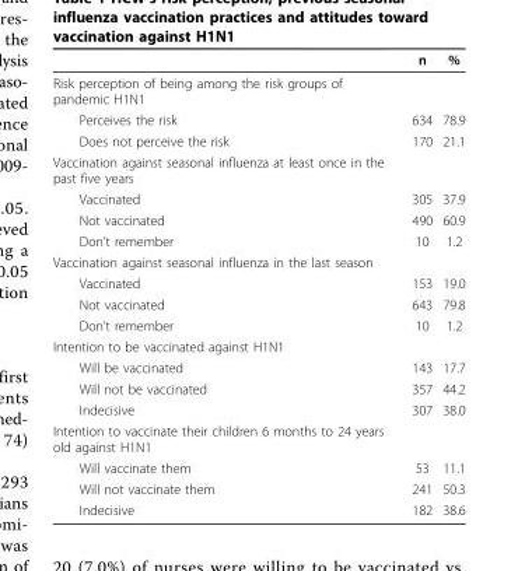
<table><thead><tr><td></td><td>n</td><td>%</td></tr></thead><tbody><tr><td colspan="3">Risk perception of being among the risk groups of pandemic H1N1</td></tr><tr><td>Perceives the risk</td><td>634</td><td>78.9</td></tr><tr><td>Does not perceive the risk</td><td>170</td><td>21.1</td></tr><tr><td colspan="3">Vaccination against seasonal influenza at least once in the past five years</td></tr><tr><td>Vaccinated</td><td>305</td><td>37.9</td></tr><tr><td>Not vaccinated</td><td>490</td><td>60.9</td></tr><tr><td>Don’t remember</td><td>10</td><td>1.2</td></tr><tr><td colspan="3">Vaccination against seasonal influenza in the last season</td></tr><tr><td>Vaccinated</td><td>153</td><td>19.0</td></tr><tr><td>Not vaccinated</td><td>643</td><td>79.8</td></tr><tr><td>Don’t remember</td><td>10</td><td>1.2</td></tr><tr><td colspan="3">Intention to be vaccinated against H1N1</td></tr><tr><td>Will be vaccinated</td><td>143</td><td>17.7</td></tr><tr><td>Will not be vaccinated</td><td>357</td><td>44.2</td></tr><tr><td>Indecisive</td><td>307</td><td>38.0</td></tr><tr><td colspan="3">Intention to vaccinate their children 6 months to 24 years old against H1N1</td></tr><tr><td>Will vaccinate them</td><td>53</td><td>11.1</td></tr><tr><td>Will not vaccinate them</td><td>241</td><td>50.3</td></tr><tr><td>Indecisive</td><td>182</td><td>38.6</td></tr></tbody></table>